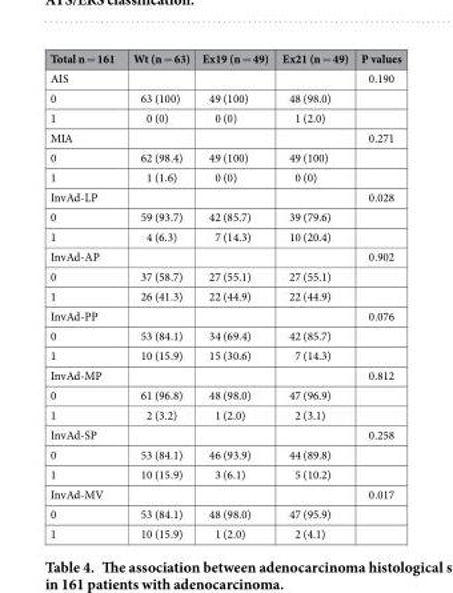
<table><thead><tr><td>Total n = 161</td><td>Wt (n = 63)</td><td>Ex19 (n = 49)</td><td>Ex21 (n = 49)</td><td>P values</td></tr></thead><tbody><tr><td>AIS</td><td></td><td></td><td></td><td>0.190</td></tr><tr><td>0</td><td>63 (100)</td><td>49 (100)</td><td>48 (98.0)</td><td></td></tr><tr><td>1</td><td>0 (0)</td><td>0 (0)</td><td>1 (2.0)</td><td></td></tr><tr><td>MIA</td><td></td><td></td><td></td><td>0.271</td></tr><tr><td>0</td><td>62 (98.4)</td><td>49 (100)</td><td>49 (100)</td><td></td></tr><tr><td>1</td><td>1 (1.6)</td><td>0 (0)</td><td>0 (0)</td><td></td></tr><tr><td>InvAd-LP</td><td></td><td></td><td></td><td>0.028</td></tr><tr><td>0</td><td>59 (93.7)</td><td>42 (85.7)</td><td>39 (79.6)</td><td></td></tr><tr><td>1</td><td>4 (6.3)</td><td>7 (14.3)</td><td>10 (20.4)</td><td></td></tr><tr><td>InvAd-AP</td><td></td><td></td><td></td><td>0.902</td></tr><tr><td>0</td><td>37 (58.7)</td><td>27 (55.1)</td><td>27 (55.1)</td><td></td></tr><tr><td>1</td><td>26 (41.3)</td><td>22 (44.9)</td><td>22 (44.9)</td><td></td></tr><tr><td>InvAd-PP</td><td></td><td></td><td></td><td>0.076</td></tr><tr><td>0</td><td>53 (84.1)</td><td>34 (69.4)</td><td>42 (85.7)</td><td></td></tr><tr><td>1</td><td>10 (15.9)</td><td>15 (30.6)</td><td>7 (14.3)</td><td></td></tr><tr><td>InvAd-MP</td><td></td><td></td><td></td><td>0.812</td></tr><tr><td>0</td><td>61 (96.8)</td><td>48 (98.0)</td><td>47 (96.9)</td><td></td></tr><tr><td>1</td><td>2 (3.2)</td><td>1 (2.0)</td><td>2 (3.1)</td><td></td></tr><tr><td>InvAd-SP</td><td></td><td></td><td></td><td>0.258</td></tr><tr><td>0</td><td>53 (84.1)</td><td>46 (93.9)</td><td>44 (89.8)</td><td></td></tr><tr><td>1</td><td>10 (15.9)</td><td>3 (6.1)</td><td>5 (10.2)</td><td></td></tr><tr><td>InvAd-MV</td><td></td><td></td><td></td><td>0.017</td></tr><tr><td>0</td><td>53 (84.1)</td><td>48 (98.0)</td><td>47 (95.9)</td><td></td></tr><tr><td>1</td><td>10 (15.9)</td><td>1 (2.0)</td><td>2 (4.1)</td><td></td></tr></tbody></table>